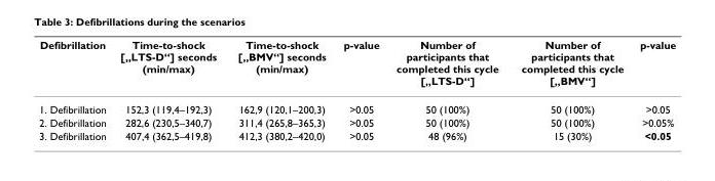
<table><thead><tr><td>Defibrillation</td><td>Time-to-shock [„LTS-D“] seconds (min/max)</td><td>Time-to-shock [„BMV“] seconds (min/max)</td><td>p-value</td><td>Number of participants that completed this cycle [„LTS-D“]</td><td>Number of participants that completed this cycle [„BMV“]</td><td>p-value</td></tr></thead><tbody><tr><td>1. Defibrillation</td><td>152,3 (119,4–192,3)</td><td>162,9 (120,1–200,3)</td><td>&gt;0.05</td><td>50 (100%)</td><td>50 (100%)</td><td>&gt;0.05</td></tr><tr><td>2. Defibrillation</td><td>282,6 (230,5–340,7)</td><td>311,4 (265,8–365,3)</td><td>&gt;0.05</td><td>50 (100%)</td><td>50 (100%)</td><td>&gt;0.05%</td></tr><tr><td>3. Defibrillation</td><td>407,4 (362,5–419,8)</td><td>412,3 (380,2–420,0)</td><td>&gt;0.05</td><td>48 (96%)</td><td>15 (30%)</td><td>&lt;0.05</td></tr></tbody></table>